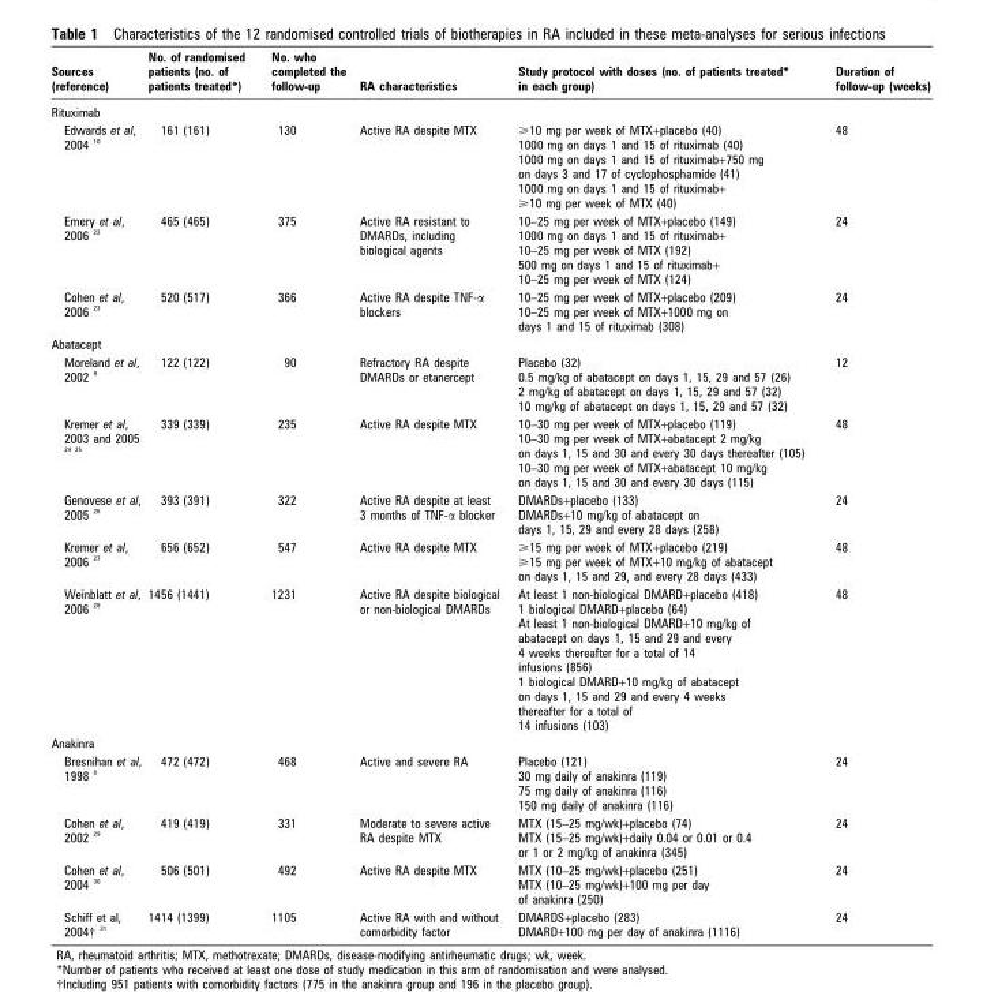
<table><thead><tr><td>Sources (reference)</td><td>No. of randomised patients (no. of patients treated*)</td><td>No. who completed the follow-up</td><td>RA characteristics</td><td>Study protocol with doses (no. of patients treated* in each group)</td><td>Duration of follow-up (weeks)</td></tr></thead><tbody><tr><td colspan="6">Rituximab</td></tr><tr><td>Edwards et al, 2004 10</td><td>161 (161)</td><td>130</td><td>Active RA despite MTX</td><td>&gt;10 mg per week of MTX+placebo (40) 1000 mg on days 1 and 15 of rituximab (40) 1000 mg on days 1 and 15 of rituximab+750 mg on days 3 and 17 of cyclophosphamide (41) 1000 mg on days 1 and 15 of rituximab+ &gt;10 mg per week of MTX (40)</td><td>48</td></tr><tr><td>Emery et al, 2006 22</td><td>465 (465)</td><td>375</td><td>Active RA resistant to DMARDs, including biological agents</td><td>10–25 mg per week of MTX+placebo (149) 1000 mg on days 1 and 15 of rituximab+ 10–25 mg per week of MTX (192) 500 mg on days 1 and 15 of rituximab+ 10–25 mg per week of MTX (124)</td><td>24</td></tr><tr><td>Cohen et al, 2006 23</td><td>520 (517)</td><td>366</td><td>Active RA despite TNF-α blockers</td><td>10–25 mg per week of MTX+placebo (209) 10–25 mg per week of MTX+1000 mg on days 1 and 15 of rituximab (308)</td><td>24</td></tr><tr><td colspan="6">Abatacept</td></tr><tr><td>Moreland et al, 2002 9</td><td>122 (122)</td><td>90</td><td>Refractory RA despite DMARDs or etanercept</td><td>Placebo (32) 0.5 mg/kg of abatacept on days 1, 15, 29 and 57 (26) 2 mg/kg of abatacept on days 1, 15, 29 and 57 (32) 10 mg/kg of abatacept on days 1, 15, 29 and 57 (32)</td><td>12</td></tr><tr><td>Kremer et al, 2003 and 2005 24 25</td><td>339 (339)</td><td>235</td><td>Active RA despite MTX</td><td>10–30 mg per week of MTX+placebo (119) 10–30 mg per week of MTX+abatacept 2 mg/kg on days 1, 15 and 30 and every 30 days thereafter (105) 10–30 mg per week of MTX+abatacept 10 mg/kg on days 1, 15 and 30 and every 30 days (115)</td><td>48</td></tr><tr><td>Genovese et al, 2005 26</td><td>393 (391)</td><td>322</td><td>Active RA despite at least 3 months of TNF-α blocker</td><td>DMARDs+placebo (133) DMARDs+10 mg/kg of abatacept on days 1, 15, 29 and every 28 days (258)</td><td>24</td></tr><tr><td>Kremer et al, 2006 27</td><td>656 (652)</td><td>547</td><td>Active RA despite MTX</td><td>&gt;15 mg per week of MTX+placebo (219) &gt;15 mg per week of MTX+10 mg/kg of abatacept on days 1, 15 and 29, and every 28 days (433)</td><td>48</td></tr><tr><td>Weinblatt et al, 2006 28</td><td>1456 (1441)</td><td>1231</td><td>Active RA despite biological or non-biological DMARDs</td><td>At least 1 non-biological DMARD+placebo (418) 1 biological DMARD+placebo (64) At least 1 non-biological DMARD+10 mg/kg of abatacept on days 1, 15 and 29 and every 4 weeks thereafter for a total of 14 infusions (856) 1 biological DMARD+10 mg/kg of abatacept on days 1, 15 and 29 and every 4 weeks thereafter for a total of 14 infusions (103)</td><td>48</td></tr><tr><td colspan="6">Anakinra</td></tr><tr><td>Bresnihan et al, 1998 8</td><td>472 (472)</td><td>468</td><td>Active and severe RA</td><td>Placebo (121) 30 mg daily of anakinra (119) 75 mg daily of anakinra (116) 150 mg daily of anakinra (116)</td><td>24</td></tr><tr><td>Cohen et al, 2002 29</td><td>419 (419)</td><td>331</td><td>Moderate to severe active RA despite MTX</td><td>MTX (15–25 mg/wk)+placebo (74) MTX (15–25 mg/wk)+daily 0.04 or 0.01 or 0.4 or 1 or 2 mg/kg of anakinra (345)</td><td>24</td></tr><tr><td>Cohen et al, 2004 30</td><td>506 (501)</td><td>492</td><td>Active RA despite MTX</td><td>MTX (10–25 mg/wk)+placebo (251) MTX (10–25 mg/wk)+100 mg per day of anakinra (250)</td><td>24</td></tr><tr><td>Schiff et al, 2004† 31</td><td>1414 (1399)</td><td>1105</td><td>Active RA with and without comorbidity factor</td><td>DMARDS+placebo (283) DMARD+100 mg per day of anakinra (1116)</td><td>24</td></tr></tbody></table>